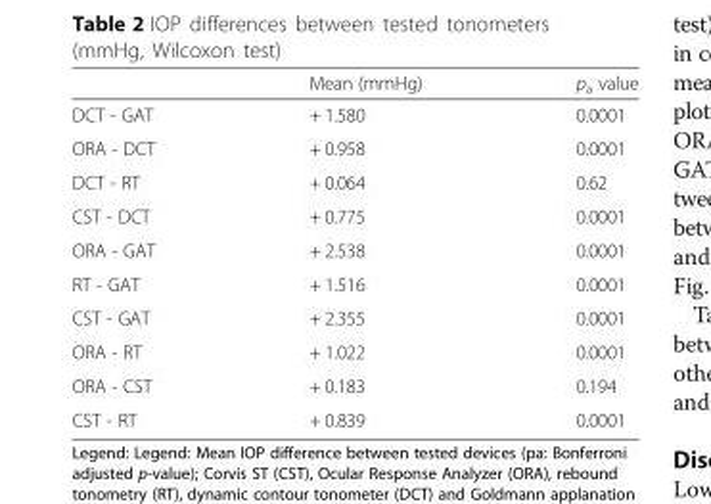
<table><thead><tr><td></td><td>Mean (mmHg)</td><td>p<sub>a</sub> value</td></tr></thead><tbody><tr><td>DCT - GAT</td><td>+ 1.580</td><td>0.0001</td></tr><tr><td>ORA - DCT</td><td>+ 0.958</td><td>0.0001</td></tr><tr><td>DCT - RT</td><td>+ 0.064</td><td>0.62</td></tr><tr><td>CST - DCT</td><td>+ 0.775</td><td>0.0001</td></tr><tr><td>ORA - GAT</td><td>+ 2.538</td><td>0.0001</td></tr><tr><td>RT - GAT</td><td>+ 1.516</td><td>0.0001</td></tr><tr><td>CST - GAT</td><td>+ 2.355</td><td>0.0001</td></tr><tr><td>ORA - RT</td><td>+ 1.022</td><td>0.0001</td></tr><tr><td>ORA - CST</td><td>+ 0.183</td><td>0.194</td></tr><tr><td>CST - RT</td><td>+ 0.839</td><td>0.0001</td></tr></tbody></table>